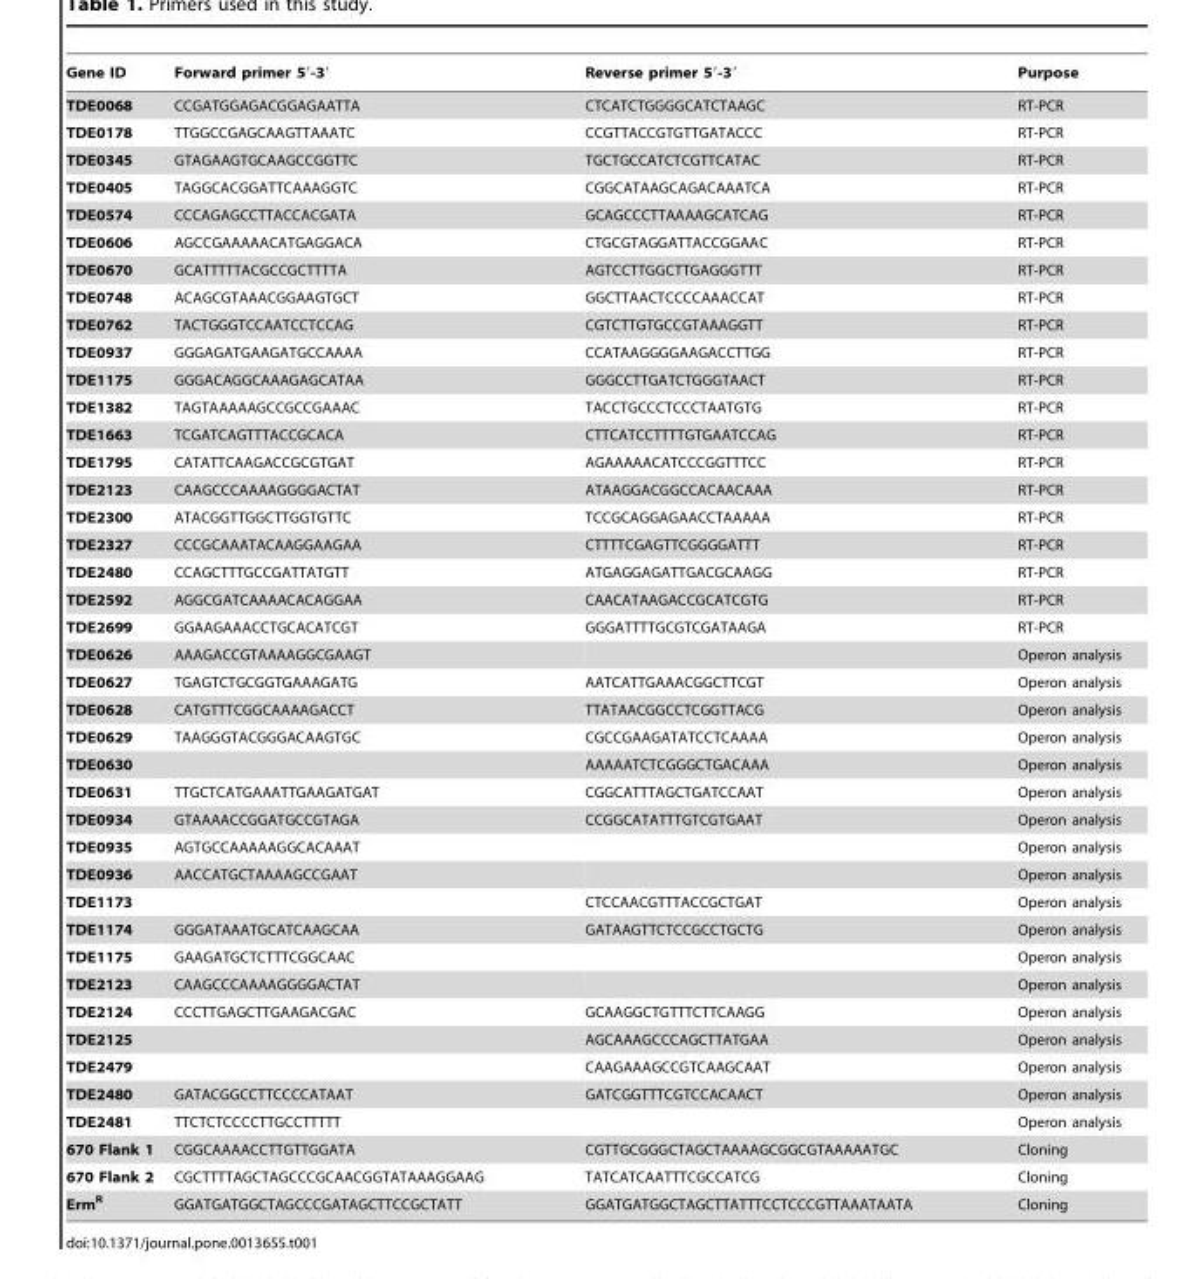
<table><thead><tr><td>Gene ID</td><td>Forward primer 5′-3′</td><td>Reverse primer 5′-3′</td><td>Purpose</td></tr></thead><tbody><tr><td>TDE0068</td><td>CCGATGGAGACGGAGAATTA</td><td>CTCATCTGGGGCATCTAAGC</td><td>RT-PCR</td></tr><tr><td>TDE0178</td><td>TTGGCCGAGCAAGTTAAATC</td><td>CCGTTACCGTGTTGATACCC</td><td>RT-PCR</td></tr><tr><td>TDE0345</td><td>GTAGAAGTGCAAGCCGGTTC</td><td>TGCTGCCATCTCGTTCATAC</td><td>RT-PCR</td></tr><tr><td>TDE0405</td><td>TAGGCACGGATTCAAAGGTC</td><td>CGGCATAAGCAGACAAATCA</td><td>RT-PCR</td></tr><tr><td>TDE0574</td><td>CCCAGAGCCTTACCACGATA</td><td>GCAGCCCTTAAAAGCATCAG</td><td>RT-PCR</td></tr><tr><td>TDE0606</td><td>AGCCGAAAAACATGAGGACA</td><td>CTGCGTAGGATTACCGGAAC</td><td>RT-PCR</td></tr><tr><td>TDE0670</td><td>GCATTTTTACGCCGCTTTTA</td><td>AGTCCTTGGCTTGAGGGTTT</td><td>RT-PCR</td></tr><tr><td>TDE0748</td><td>ACAGCGTAAACGGAAGTGCT</td><td>GGCTTAACTCCCCAAACCAT</td><td>RT-PCR</td></tr><tr><td>TDE0762</td><td>TACTGGGTCCAATCCTCCAG</td><td>CGTCTTGTGCCGTAAAGGTT</td><td>RT-PCR</td></tr><tr><td>TDE0937</td><td>GGGAGATGAAGATGCCAAAA</td><td>CCATAAGGGGAAGACCTTGG</td><td>RT-PCR</td></tr><tr><td>TDE1175</td><td>GGGACAGGCAAAGAGCATAA</td><td>GGGCCTTGATCTGGGTAACT</td><td>RT-PCR</td></tr><tr><td>TDE1382</td><td>TAGTAAAAAGCCGCCGAAAC</td><td>TACCTGCCCTCCCTAATGTG</td><td>RT-PCR</td></tr><tr><td>TDE1663</td><td>TCGATCAGTTTACCGCACA</td><td>CTTCATCCTTTTGTGAATCCAG</td><td>RT-PCR</td></tr><tr><td>TDE1795</td><td>CATATTCAAGACCGCGTGAT</td><td>AGAAAAACATCCCGGTTTCC</td><td>RT-PCR</td></tr><tr><td>TDE2123</td><td>CAAGCCCAAAAGGGGACTAT</td><td>ATAAGGACGGCCACAACAAA</td><td>RT-PCR</td></tr><tr><td>TDE2300</td><td>ATACGGTTGGCTTGGTGTTC</td><td>TCCGCAGGAGAACCTAAAAA</td><td>RT-PCR</td></tr><tr><td>TDE2327</td><td>CCCGCAAATACAAGGAAGAA</td><td>CTTTTCGAGTTCGGGGATTT</td><td>RT-PCR</td></tr><tr><td>TDE2480</td><td>CCAGCTTTGCCGATTATGTT</td><td>ATGAGGAGATTGACGCAAGG</td><td>RT-PCR</td></tr><tr><td>TDE2592</td><td>AGGCGATCAAAACACAGGAA</td><td>CAACATAAGACCGCATCGTG</td><td>RT-PCR</td></tr><tr><td>TDE2699</td><td>GGAAGAAACCTGCACATCGT</td><td>GGGATTTTGCGTCGATAAGA</td><td>RT-PCR</td></tr><tr><td>TDE0626</td><td>AAAGACCGTAAAAGGCGAAGT</td><td></td><td>Operon analysis</td></tr><tr><td>TDE0627</td><td>TGAGTCTGCGGTGAAAGATG</td><td>AATCATTGAAACGGCTTCGT</td><td>Operon analysis</td></tr><tr><td>TDE0628</td><td>CATGTTTCGGCAAAAGACCT</td><td>TTATAACGGCCTCGGTTACG</td><td>Operon analysis</td></tr><tr><td>TDE0629</td><td>TAAGGGTACGGGACAAGTGC</td><td>CGCCGAAGATATCCTCAAAA</td><td>Operon analysis</td></tr><tr><td>TDE0630</td><td></td><td>AAAAATCTCGGGCTGACAAA</td><td>Operon analysis</td></tr><tr><td>TDE0631</td><td>TTGCTCATGAAATTGAAGATGAT</td><td>CGGCATTTAGCTGATCCAAT</td><td>Operon analysis</td></tr><tr><td>TDE0934</td><td>GTAAAACCGGATGCCGTAGA</td><td>CCGGCATATTTGTCGTGAAT</td><td>Operon analysis</td></tr><tr><td>TDE0935</td><td>AGTGCCAAAAAGGCACAAAT</td><td></td><td>Operon analysis</td></tr><tr><td>TDE0936</td><td>AACCATGCTAAAAGCCGAAT</td><td></td><td>Operon analysis</td></tr><tr><td>TDE1173</td><td></td><td>CTCCAACGTTTACCGCTGAT</td><td>Operon analysis</td></tr><tr><td>TDE1174</td><td>GGGATAAATGCATCAAGCAA</td><td>GATAAGTTCTCCGCCTGCTG</td><td>Operon analysis</td></tr><tr><td>TDE1175</td><td>GAAGATGCTCTTTCGGCAAC</td><td></td><td>Operon analysis</td></tr><tr><td>TDE2123</td><td>CAAGCCCAAAAGGGGACTAT</td><td></td><td>Operon analysis</td></tr><tr><td>TDE2124</td><td>CCCTTGAGCTTGAAGACGAC</td><td>GCAAGGCTGTTTCTTCAAGG</td><td>Operon analysis</td></tr><tr><td>TDE2125</td><td></td><td>AGCAAAGCCCAGCTTATGAA</td><td>Operon analysis</td></tr><tr><td>TDE2479</td><td></td><td>CAAGAAAGCCGTCAAGCAAT</td><td>Operon analysis</td></tr><tr><td>TDE2480</td><td>GATACGGCCTTCCCCATAAT</td><td>GATCGGTTTCGTCCACAACT</td><td>Operon analysis</td></tr><tr><td>TDE2481</td><td>TTCTCTCCCCTTGCCTTTTT</td><td></td><td>Operon analysis</td></tr><tr><td>670 Flank 1</td><td>CGGCAAAACCTTGTTGGATA</td><td>CGTTGCGGGCTAGCTAAAAGCGGCGTAAAAATGC</td><td>Cloning</td></tr><tr><td>670 Flank 2</td><td>CGCTTTTAGCTAGCCCGCAACGGTATAAAGGAAG</td><td>TATCATCAATTTCGCCATCG</td><td>Cloning</td></tr><tr><td>Erm<sup>R</sup></td><td>GGATGATGGCTAGCCCGATAGCTTCCGCTATT</td><td>GGATGATGGCTAGCTTATTTCCTCCCGTTAAATAATA</td><td>Cloning</td></tr></tbody></table>